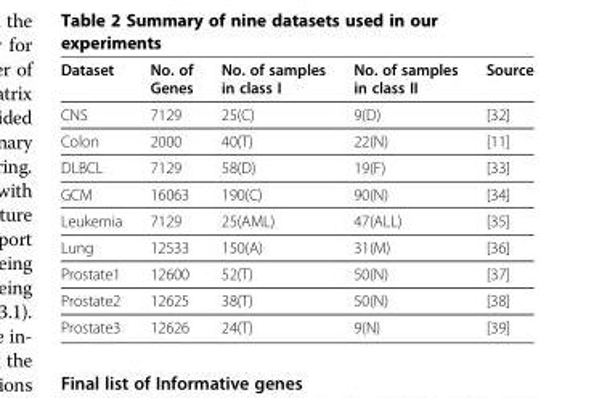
<table><thead><tr><td>Dataset</td><td>No. of Genes</td><td>No. of samples in class I</td><td>No. of samples in class II</td><td>Source</td></tr></thead><tbody><tr><td>CNS</td><td>7129</td><td>25(C)</td><td>9(D)</td><td>[32]</td></tr><tr><td>Colon</td><td>2000</td><td>40(T)</td><td>22(N)</td><td>[11]</td></tr><tr><td>DLBCL</td><td>7129</td><td>58(D)</td><td>19(F)</td><td>[33]</td></tr><tr><td>GCM</td><td>16063</td><td>190(C)</td><td>90(N)</td><td>[34]</td></tr><tr><td>Leukemia</td><td>7129</td><td>25(AML)</td><td>47(ALL)</td><td>[35]</td></tr><tr><td>Lung</td><td>12533</td><td>150(A)</td><td>31(M)</td><td>[36]</td></tr><tr><td>Prostate1</td><td>12600</td><td>52(T)</td><td>50(N)</td><td>[37]</td></tr><tr><td>Prostate2</td><td>12625</td><td>38(T)</td><td>50(N)</td><td>[38]</td></tr><tr><td>Prostate3</td><td>12626</td><td>24(T)</td><td>9(N)</td><td>[39]</td></tr></tbody></table>